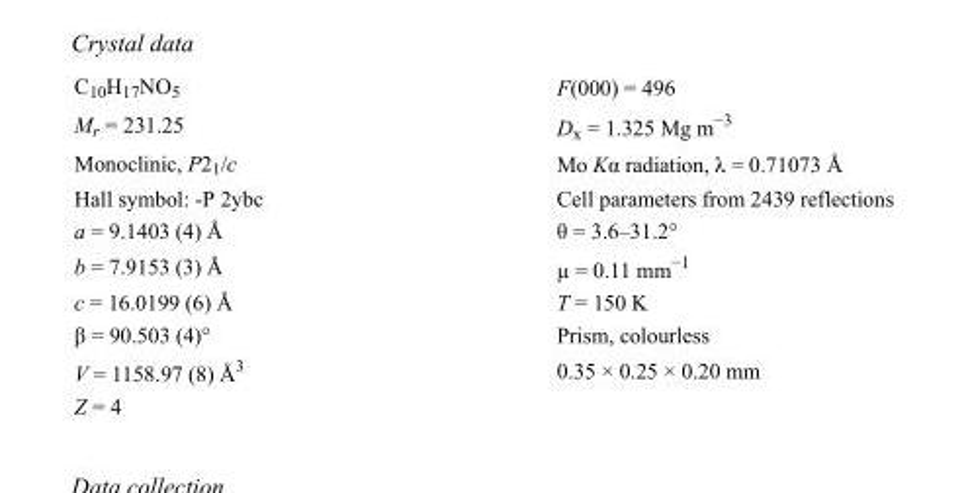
<table><tbody><tr><td>C<sub>10</sub>H<sub>17</sub>NO<sub>5</sub></td><td>F(000) = 496</td></tr><tr><td>M<sub>r</sub> = 231.25</td><td>D<sub>x</sub> = 1.325 Mg m<sup>−3</sup></td></tr><tr><td>Monoclinic, P2<sub>1</sub>/c</td><td>Mo Kα radiation, λ = 0.71073 Å</td></tr><tr><td>Hall symbol: -P 2ybc</td><td>Cell parameters from 2439 reflections</td></tr><tr><td>a = 9.1403 (4) Å</td><td>θ = 3.6–31.2°</td></tr><tr><td>b = 7.9153 (3) Å</td><td>µ = 0.11 mm<sup>−1</sup></td></tr><tr><td>c = 16.0199 (6) Å</td><td>T = 150 K</td></tr><tr><td>β = 90.503 (4)°</td><td>Prism, colourless</td></tr><tr><td>V = 1158.97 (8) Å<sup>3</sup></td><td>0.35 × 0.25 × 0.20 mm</td></tr><tr><td>Z = 4</td><td></td></tr></tbody></table>